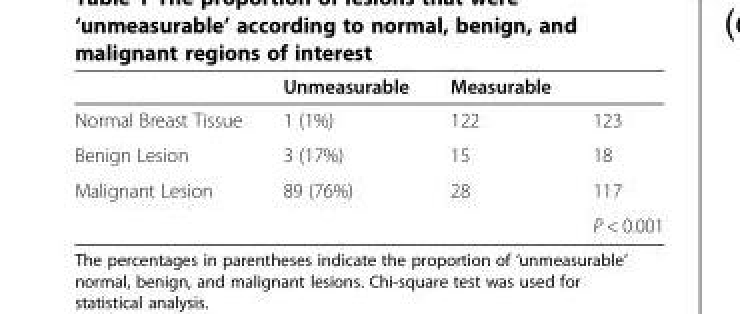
<table><thead><tr><td></td><td>Unmeasurable</td><td>Measurable</td><td></td></tr></thead><tbody><tr><td>Normal Breast Tissue</td><td>1 (1%)</td><td>122</td><td>123</td></tr><tr><td>Benign Lesion</td><td>3 (17%)</td><td>15</td><td>18</td></tr><tr><td>Malignant Lesion</td><td>89 (76%)</td><td>28</td><td>117</td></tr><tr><td colspan="3"></td><td>P &lt; 0.001</td></tr></tbody></table>